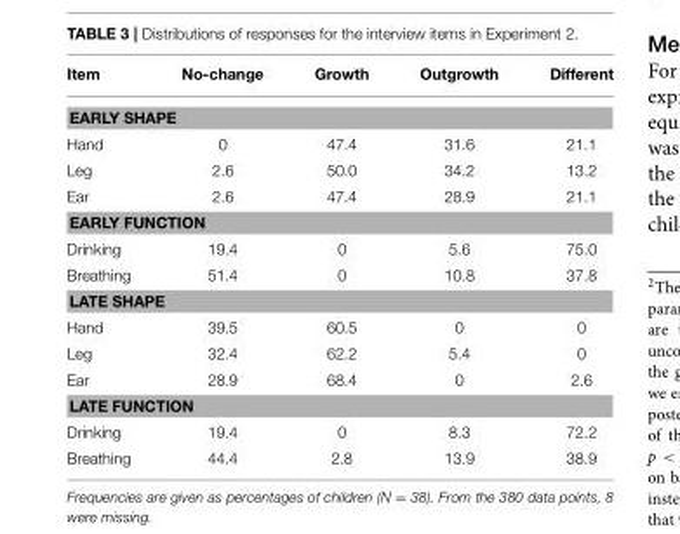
<table><thead><tr><td>Item</td><td>No-change</td><td>Growth</td><td>Outgrowth</td><td>Different</td></tr></thead><tbody><tr><td colspan="5">EARLY SHAPE</td></tr><tr><td>Hand</td><td>0</td><td>47.4</td><td>31.6</td><td>21.1</td></tr><tr><td>Leg</td><td>2.6</td><td>50.0</td><td>34.2</td><td>13.2</td></tr><tr><td>Ear</td><td>2.6</td><td>47.4</td><td>28.9</td><td>21.1</td></tr><tr><td colspan="5">EARLY FUNCTION</td></tr><tr><td>Drinking</td><td>19.4</td><td>0</td><td>5.6</td><td>75.0</td></tr><tr><td>Breathing</td><td>51.4</td><td>0</td><td>10.8</td><td>37.8</td></tr><tr><td colspan="5">LATE SHAPE</td></tr><tr><td>Hand</td><td>39.5</td><td>60.5</td><td>0</td><td>0</td></tr><tr><td>Leg</td><td>32.4</td><td>62.2</td><td>5.4</td><td>0</td></tr><tr><td>Ear</td><td>28.9</td><td>68.4</td><td>0</td><td>2.6</td></tr><tr><td colspan="5">LATE FUNCTION</td></tr><tr><td>Drinking</td><td>19.4</td><td>0</td><td>8.3</td><td>72.2</td></tr><tr><td>Breathing</td><td>44.4</td><td>2.8</td><td>13.9</td><td>38.9</td></tr></tbody></table>